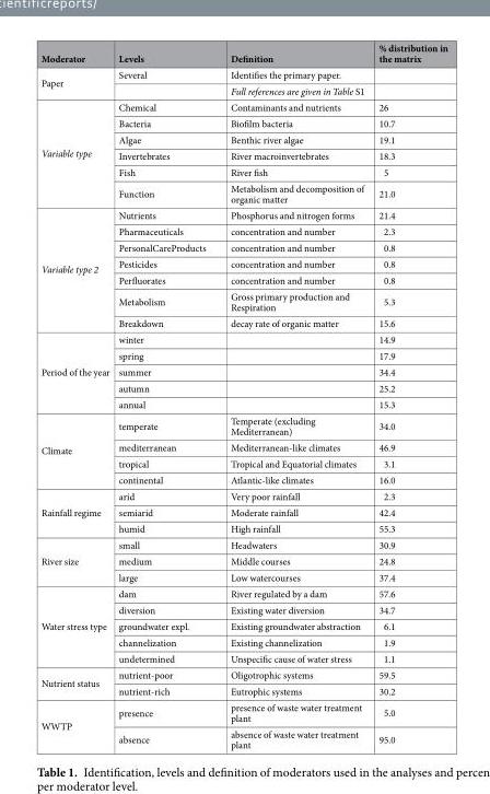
<table><thead><tr><td>Moderator</td><td>Levels</td><td>Definition</td><td>% distribution in the matrix</td></tr></thead><tbody><tr><td rowspan="2">Paper</td><td>Several</td><td>Identifies the primary paper.</td><td></td></tr><tr><td></td><td>Full references are given in Table S1</td><td></td></tr><tr><td rowspan="6">Variable type</td><td>Chemical</td><td>Contaminants and nutrients</td><td>26</td></tr><tr><td>Bacteria</td><td>Biofilm bacteria</td><td>10.7</td></tr><tr><td>Algae</td><td>Benthic river algae</td><td>19.1</td></tr><tr><td>Invertebrates</td><td>River macroinvertebrates</td><td>18.3</td></tr><tr><td>Fish</td><td>River fish</td><td>5</td></tr><tr><td>Function</td><td>Metabolism and decomposition of organic matter</td><td>21.0</td></tr><tr><td rowspan="7">Variable type 2</td><td>Nutrients</td><td>Phosphorus and nitrogen forms</td><td>21.4</td></tr><tr><td>Pharmaceuticals</td><td>concentration and number</td><td>2.3</td></tr><tr><td>PersonalCareProducts</td><td>concentration and number</td><td>0.8</td></tr><tr><td>Pesticides</td><td>concentration and number</td><td>0.8</td></tr><tr><td>Perfluorates</td><td>concentration and number</td><td>0.8</td></tr><tr><td>Metabolism</td><td>Gross primary production and Respiration</td><td>5.3</td></tr><tr><td>Breakdown</td><td>decay rate of organic matter</td><td>15.6</td></tr><tr><td rowspan="5">Period of the year</td><td>winter</td><td></td><td>14.9</td></tr><tr><td>spring</td><td></td><td>17.9</td></tr><tr><td>summer</td><td></td><td>34.4</td></tr><tr><td>autumn</td><td></td><td>25.2</td></tr><tr><td>annual</td><td></td><td>15.3</td></tr><tr><td rowspan="4">Climate</td><td>temperate</td><td>Temperate (excluding Mediterranean)</td><td>34.0</td></tr><tr><td>mediterranean</td><td>Mediterranean-like climates</td><td>46.9</td></tr><tr><td>tropical</td><td>Tropical and Equatorial climates</td><td>3.1</td></tr><tr><td>continental</td><td>Atlantic-like climates</td><td>16.0</td></tr><tr><td rowspan="3">Rainfall regime</td><td>arid</td><td>Very poor rainfall</td><td>2.3</td></tr><tr><td>semiarid</td><td>Moderate rainfall</td><td>42.4</td></tr><tr><td>humid</td><td>High rainfall</td><td>55.3</td></tr><tr><td rowspan="3">River size</td><td>small</td><td>Headwaters</td><td>30.9</td></tr><tr><td>medium</td><td>Middle courses</td><td>24.8</td></tr><tr><td>large</td><td>Low watercourses</td><td>37.4</td></tr><tr><td rowspan="5">Water stress type</td><td>dam</td><td>River regulated by a dam</td><td>57.6</td></tr><tr><td>diversion</td><td>Existing water diversion</td><td>34.7</td></tr><tr><td>groundwater expl.</td><td>Existing groundwater abstraction</td><td>6.1</td></tr><tr><td>channelization</td><td>Existing channelization</td><td>1.9</td></tr><tr><td>undetermined</td><td>Unspecific cause of water stress</td><td>1.1</td></tr><tr><td rowspan="2">Nutrient status</td><td>nutrient-poor</td><td>Oligotrophic systems</td><td>59.5</td></tr><tr><td>nutrient-rich</td><td>Eutrophic systems</td><td>30.2</td></tr><tr><td rowspan="2">WWTP</td><td>presence</td><td>presence of waste water treatment plant</td><td>5.0</td></tr><tr><td>absence</td><td>absence of waste water treatment plant</td><td>95.0</td></tr></tbody></table>